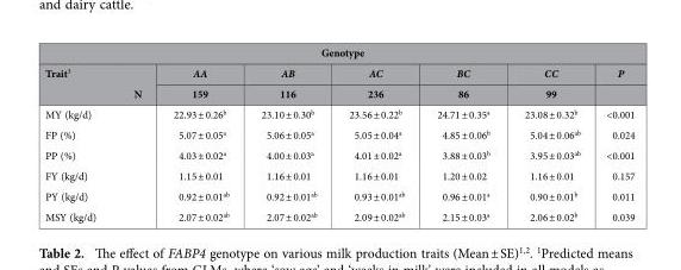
<table><thead><tr><td colspan="8">Genotype</td></tr><tr><td rowspan="2">Trait<sup>3</sup></td><td rowspan="2">N</td><td rowspan="2">AA 159</td><td rowspan="2">AB 116</td><td rowspan="2">AC 236</td><td rowspan="2">BC 86</td><td rowspan="2">CC 99</td><td rowspan="2">P</td></tr><tr></tr></thead><tbody><tr><td>MY (kg/d)</td><td></td><td>22.93 ± 0.26<sup>b</sup></td><td>23.10 ± 0.30<sup>b</sup></td><td>23.56 ± 0.22<sup>b</sup></td><td>24.71 ± 0.35<sup>a</sup></td><td>23.08 ± 0.32<sup>b</sup></td><td>&lt;0.001</td></tr><tr><td>FP (%)</td><td></td><td>5.07 ± 0.05<sup>a</sup></td><td>5.06 ± 0.05<sup>a</sup></td><td>5.05 ± 0.04<sup>a</sup></td><td>4.85 ± 0.06<sup>b</sup></td><td>5.04 ± 0.06<sup>ab</sup></td><td>0.024</td></tr><tr><td>PP (%)</td><td></td><td>4.03 ± 0.02<sup>a</sup></td><td>4.00 ± 0.03<sup>a</sup></td><td>4.01 ± 0.02<sup>a</sup></td><td>3.88 ± 0.03<sup>b</sup></td><td>3.95 ± 0.03<sup>ab</sup></td><td>&lt;0.001</td></tr><tr><td>FY (kg/d)</td><td></td><td>1.15 ± 0.01</td><td>1.16 ± 0.01</td><td>1.16 ± 0.01</td><td>1.20 ± 0.02</td><td>1.16 ± 0.01</td><td>0.157</td></tr><tr><td>PY (kg/d)</td><td></td><td>0.92 ± 0.01<sup>ab</sup></td><td>0.92 ± 0.01<sup>ab</sup></td><td>0.93 ± 0.01<sup>ab</sup></td><td>0.96 ± 0.01<sup>a</sup></td><td>0.90 ± 0.01<sup>b</sup></td><td>0.011</td></tr><tr><td>MSY (kg/d)</td><td></td><td>2.07 ± 0.02<sup>ab</sup></td><td>2.07 ± 0.02<sup>ab</sup></td><td>2.09 ± 0.02<sup>ab</sup></td><td>2.15 ± 0.03<sup>a</sup></td><td>2.06 ± 0.02<sup>b</sup></td><td>0.039</td></tr></tbody></table>